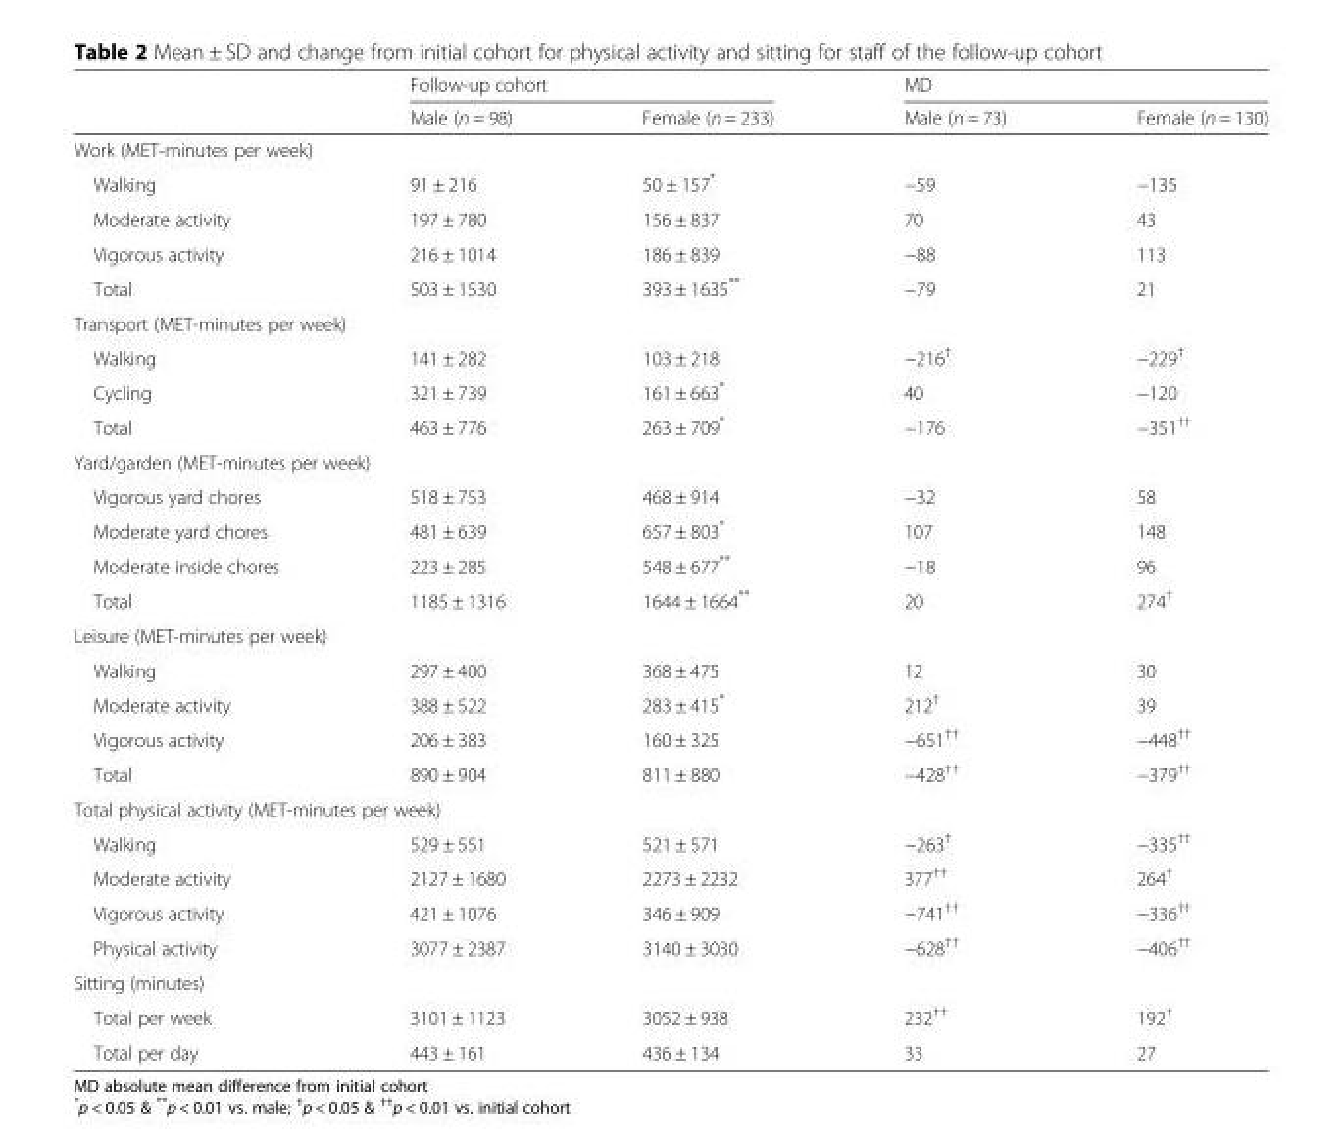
<table><thead><tr><td rowspan="2"></td><td colspan="2">Follow-up cohort</td><td colspan="2">MD</td></tr><tr><td>Male (n = 98)</td><td>Female (n = 233)</td><td>Male (n = 73)</td><td>Female (n = 130)</td></tr></thead><tbody><tr><td colspan="5">Work (MET-minutes per week)</td></tr><tr><td>Walking</td><td>91 ± 216</td><td>50 ± 157*</td><td>−59</td><td>−135</td></tr><tr><td>Moderate activity</td><td>197 ± 780</td><td>156 ± 837</td><td>70</td><td>43</td></tr><tr><td>Vigorous activity</td><td>216 ± 1014</td><td>186 ± 839</td><td>−88</td><td>113</td></tr><tr><td>Total</td><td>503 ± 1530</td><td>393 ± 1635**</td><td>−79</td><td>21</td></tr><tr><td colspan="5">Transport (MET-minutes per week)</td></tr><tr><td>Walking</td><td>141 ± 282</td><td>103 ± 218</td><td>−216<sup>†</sup></td><td>−229<sup>†</sup></td></tr><tr><td>Cycling</td><td>321 ± 739</td><td>161 ± 663*</td><td>40</td><td>−120</td></tr><tr><td>Total</td><td>463 ± 776</td><td>263 ± 709*</td><td>−176</td><td>−351<sup>††</sup></td></tr><tr><td colspan="5">Yard/garden (MET-minutes per week)</td></tr><tr><td>Vigorous yard chores</td><td>518 ± 753</td><td>468 ± 914</td><td>−32</td><td>58</td></tr><tr><td>Moderate yard chores</td><td>481 ± 639</td><td>657 ± 803*</td><td>107</td><td>148</td></tr><tr><td>Moderate inside chores</td><td>223 ± 285</td><td>548 ± 677**</td><td>−18</td><td>96</td></tr><tr><td>Total</td><td>1185 ± 1316</td><td>1644 ± 1664**</td><td>20</td><td>274<sup>†</sup></td></tr><tr><td colspan="5">Leisure (MET-minutes per week)</td></tr><tr><td>Walking</td><td>297 ± 400</td><td>368 ± 475</td><td>12</td><td>30</td></tr><tr><td>Moderate activity</td><td>388 ± 522</td><td>283 ± 415*</td><td>212<sup>†</sup></td><td>39</td></tr><tr><td>Vigorous activity</td><td>206 ± 383</td><td>160 ± 325</td><td>−651<sup>††</sup></td><td>−448<sup>††</sup></td></tr><tr><td>Total</td><td>890 ± 904</td><td>811 ± 880</td><td>−428<sup>††</sup></td><td>−379<sup>††</sup></td></tr><tr><td colspan="5">Total physical activity (MET-minutes per week)</td></tr><tr><td>Walking</td><td>529 ± 551</td><td>521 ± 571</td><td>−263<sup>†</sup></td><td>−335<sup>††</sup></td></tr><tr><td>Moderate activity</td><td>2127 ± 1680</td><td>2273 ± 2232</td><td>377<sup>††</sup></td><td>264<sup>†</sup></td></tr><tr><td>Vigorous activity</td><td>421 ± 1076</td><td>346 ± 909</td><td>−741<sup>††</sup></td><td>−336<sup>††</sup></td></tr><tr><td>Physical activity</td><td>3077 ± 2387</td><td>3140 ± 3030</td><td>−628<sup>††</sup></td><td>−406<sup>††</sup></td></tr><tr><td colspan="5">Sitting (minutes)</td></tr><tr><td>Total per week</td><td>3101 ± 1123</td><td>3052 ± 938</td><td>232<sup>††</sup></td><td>192<sup>†</sup></td></tr><tr><td>Total per day</td><td>443 ± 161</td><td>436 ± 134</td><td>33</td><td>27</td></tr></tbody></table>